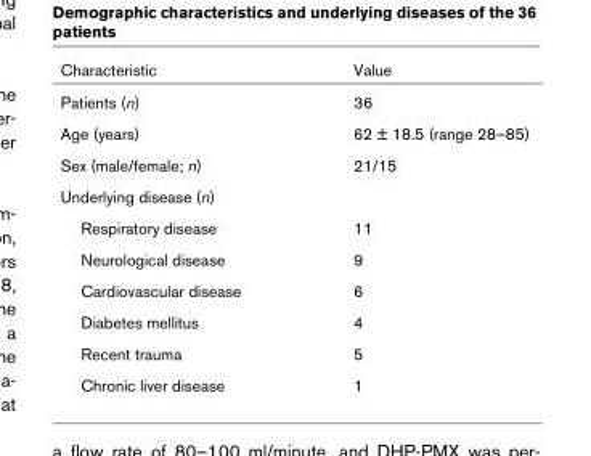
<table><thead><tr><td>Characteristic</td><td>Value</td></tr></thead><tbody><tr><td>Patients (n)</td><td>36</td></tr><tr><td>Age (years)</td><td>62 ± 18.5 (range 28–85)</td></tr><tr><td>Sex (male/female; n)</td><td>21/15</td></tr><tr><td colspan="2">Underlying disease (n)</td></tr><tr><td>Respiratory disease</td><td>11</td></tr><tr><td>Neurological disease</td><td>9</td></tr><tr><td>Cardiovascular disease</td><td>6</td></tr><tr><td>Diabetes mellitus</td><td>4</td></tr><tr><td>Recent trauma</td><td>5</td></tr><tr><td>Chronic liver disease</td><td>1</td></tr></tbody></table>